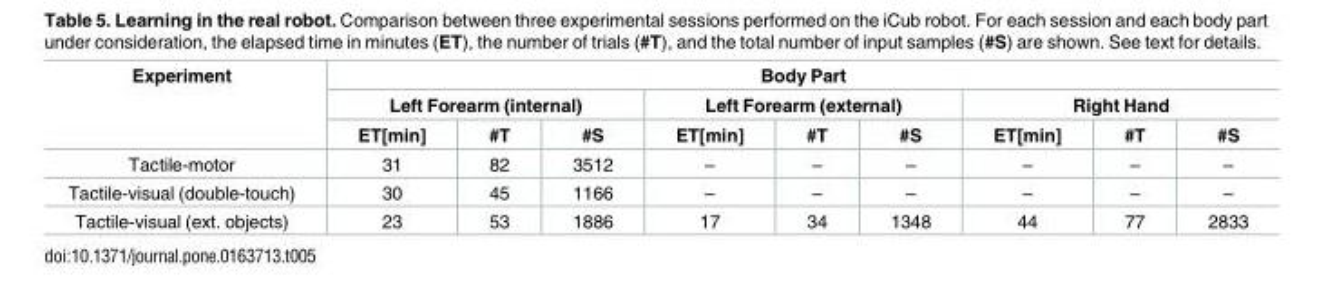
<table><thead><tr><td rowspan="3">Experiment</td><td colspan="9">Body Part</td></tr><tr><td colspan="3">Left Forearm (internal)</td><td colspan="3">Left Forearm (external)</td><td colspan="3">Right Hand</td></tr><tr><td>ET[min]</td><td>#T</td><td>#S</td><td>ET[min]</td><td>#T</td><td>#S</td><td>ET[min]</td><td>#T</td><td>#S</td></tr></thead><tbody><tr><td>Tactile-motor</td><td>31</td><td>82</td><td>3512</td><td>–</td><td>–</td><td>–</td><td>–</td><td>–</td><td>–</td></tr><tr><td>Tactile-visual (double-touch)</td><td>30</td><td>45</td><td>1166</td><td>–</td><td>–</td><td>–</td><td>–</td><td>–</td><td>–</td></tr><tr><td>Tactile-visual (ext. objects)</td><td>23</td><td>53</td><td>1886</td><td>17</td><td>34</td><td>1348</td><td>44</td><td>77</td><td>2833</td></tr></tbody></table>